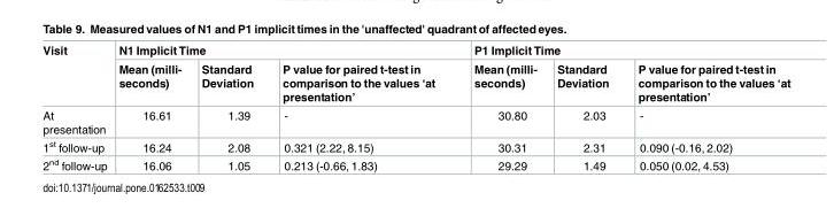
<table><thead><tr><td rowspan="2">Visit</td><td colspan="3">N1 Implicit Time</td><td colspan="3">P1 Implicit Time</td></tr><tr><td>Mean (milli- seconds)</td><td>Standard Deviation</td><td>P value for paired t-test in comparison to the values ‘at presentation’</td><td>Mean (milli- seconds)</td><td>Standard Deviation</td><td>P value for paired t-test in comparison to the values ‘at presentation’</td></tr></thead><tbody><tr><td>At presentation</td><td>16.61</td><td>1.39</td><td>-</td><td>30.80</td><td>2.03</td><td>-</td></tr><tr><td>1<sup>st</sup> follow-up</td><td>16.24</td><td>2.08</td><td>0.321 (2.22, 8.15)</td><td>30.31</td><td>2.31</td><td>0.090 (-0.16, 2.02)</td></tr><tr><td>2<sup>nd</sup> follow-up</td><td>16.06</td><td>1.05</td><td>0.213 (-0.66, 1.83)</td><td>29.29</td><td>1.49</td><td>0.050 (0.02, 4.53)</td></tr></tbody></table>